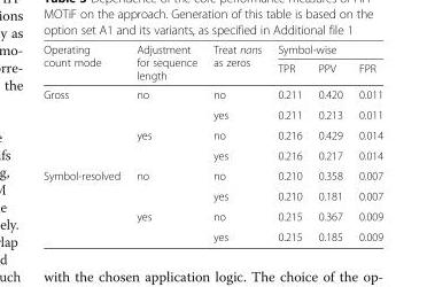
<table><thead><tr><td rowspan="2">Operating count mode</td><td rowspan="2">Adjustment for sequence length</td><td rowspan="2">Treat nans as zeros</td><td colspan="3">Symbol-wise</td></tr><tr><td>TPR</td><td>PPV</td><td>FPR</td></tr></thead><tbody><tr><td rowspan="4">Gross</td><td rowspan="2">no</td><td>no</td><td>0.211</td><td>0.420</td><td>0.011</td></tr><tr><td>yes</td><td>0.211</td><td>0.213</td><td>0.011</td></tr><tr><td rowspan="2">yes</td><td>no</td><td>0.216</td><td>0.429</td><td>0.014</td></tr><tr><td>yes</td><td>0.216</td><td>0.217</td><td>0.014</td></tr><tr><td rowspan="4">Symbol-resolved</td><td rowspan="2">no</td><td>no</td><td>0.210</td><td>0.358</td><td>0.007</td></tr><tr><td>yes</td><td>0.210</td><td>0.181</td><td>0.007</td></tr><tr><td rowspan="2">yes</td><td>no</td><td>0.215</td><td>0.367</td><td>0.009</td></tr><tr><td>yes</td><td>0.215</td><td>0.185</td><td>0.009</td></tr></tbody></table>